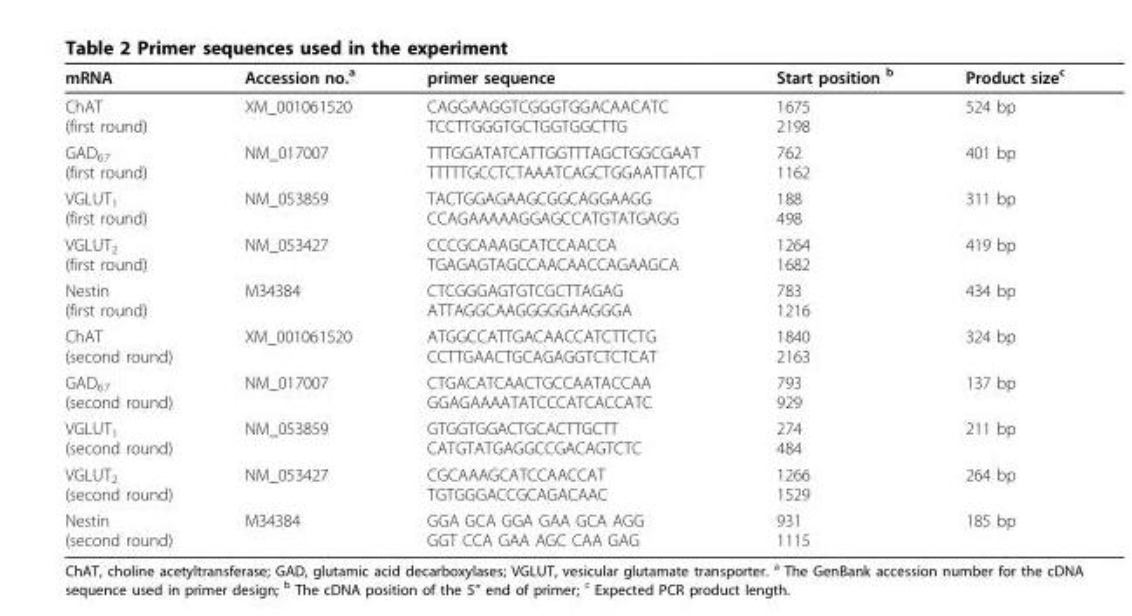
<table><thead><tr><td>mRNA</td><td>Accession no.<sup>a</sup></td><td>primer sequence</td><td>Start position <sup>b</sup></td><td>Product size<sup>c</sup></td></tr></thead><tbody><tr><td>ChAT (first round)</td><td>XM_001061520</td><td>CAGGAAGGTCGGGTGGACAACATC TCCTTGGGTGCTGGTGGCTTG</td><td>1675 2198</td><td>524 bp</td></tr><tr><td>GAD<sub>67</sub> (first round)</td><td>NM_017007</td><td>TTTGGATATCATTGGTTTAGCTGGCGAAT TTTTTGCCTCTAAATCAGCTGGAATTATCT</td><td>762 1162</td><td>401 bp</td></tr><tr><td>VGLUT<sub>1</sub> (first round)</td><td>NM_053859</td><td>TACTGGAGAAGCGGCAGGAAGG CCAGAAAAAGGAGCCATGTATGAGG</td><td>188 498</td><td>311 bp</td></tr><tr><td>VGLUT<sub>2</sub> (first round)</td><td>NM_053427</td><td>CCCGCAAAGCATCCAACCA TGAGAGTAGCCAACAACCAGAAGCA</td><td>1264 1682</td><td>419 bp</td></tr><tr><td>Nestin (first round)</td><td>M34384</td><td>CTCGGGAGTGTCGCTTAGAG ATTAGGCAAGGGGGAAGGGA</td><td>783 1216</td><td>434 bp</td></tr><tr><td>ChAT (second round)</td><td>XM_001061520</td><td>ATGGCCATTGACAACCATCTTCTG CCTTGAACTGCAGAGGTCTCTCAT</td><td>1840 2163</td><td>324 bp</td></tr><tr><td>GAD<sub>67</sub> (second round)</td><td>NM_017007</td><td>CTGACATCAACTGCCAATACCAA GGAGAAAATATCCCATCACCATC</td><td>793 929</td><td>137 bp</td></tr><tr><td>VGLUT<sub>1</sub> (second round)</td><td>NM_053859</td><td>GTGGTGGACTGCACTTGCTT CATGTATGAGGCCGACAGTCTC</td><td>274 484</td><td>211 bp</td></tr><tr><td>VGLUT<sub>2</sub> (second round)</td><td>NM_053427</td><td>CGCAAAGCATCCAACCAT TGTGGGACCGCAGACAAC</td><td>1266 1529</td><td>264 bp</td></tr><tr><td>Nestin (second round)</td><td>M34384</td><td>GGA GCA GGA GAA GCA AGG GGT CCA GAA AGC CAA GAG</td><td>931 1115</td><td>185 bp</td></tr></tbody></table>